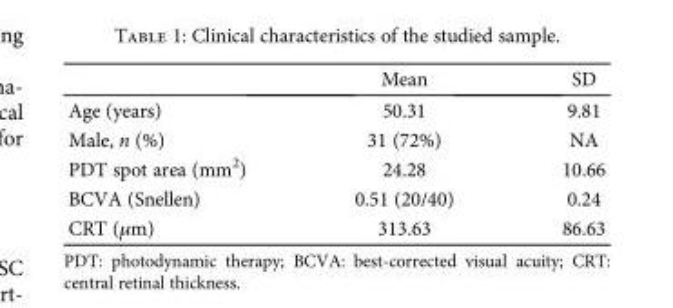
<table><thead><tr><td></td><td>Mean</td><td>SD</td></tr></thead><tbody><tr><td>Age (years)</td><td>50.31</td><td>9.81</td></tr><tr><td>Male, n (%)</td><td>31 (72%)</td><td>NA</td></tr><tr><td>PDT spot area (mm<sup>2</sup>)</td><td>24.28</td><td>10.66</td></tr><tr><td>BCVA (Snellen)</td><td>0.51 (20/40)</td><td>0.24</td></tr><tr><td>CRT (μm)</td><td>313.63</td><td>86.63</td></tr></tbody></table>